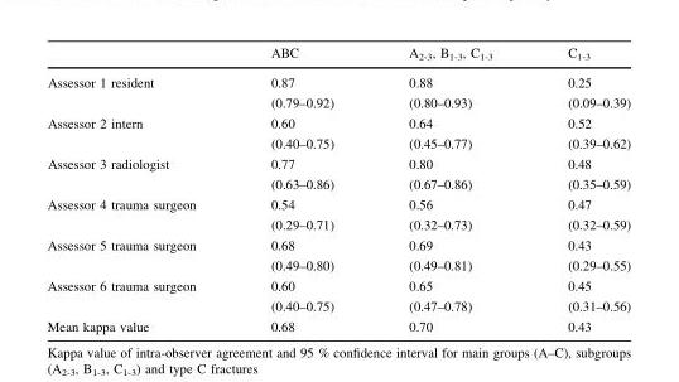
<table><thead><tr><td></td><td>ABC</td><td>A<sub>2-3</sub>, B<sub>1-3</sub>, C<sub>1-3</sub></td><td>C<sub>1-3</sub></td></tr></thead><tbody><tr><td>Assessor 1 resident</td><td>0.87 (0.79–0.92)</td><td>0.88 (0.80–0.93)</td><td>0.25 (0.09–0.39)</td></tr><tr><td>Assessor 2 intern</td><td>0.60 (0.40–0.75)</td><td>0.64 (0.45–0.77)</td><td>0.52 (0.39–0.62)</td></tr><tr><td>Assessor 3 radiologist</td><td>0.77 (0.63–0.86)</td><td>0.80 (0.67–0.86)</td><td>0.48 (0.35–0.59)</td></tr><tr><td>Assessor 4 trauma surgeon</td><td>0.54 (0.29–0.71)</td><td>0.56 (0.32–0.73)</td><td>0.47 (0.32–0.59)</td></tr><tr><td>Assessor 5 trauma surgeon</td><td>0.68 (0.49–0.80)</td><td>0.69 (0.49–0.81)</td><td>0.43 (0.29–0.55)</td></tr><tr><td>Assessor 6 trauma surgeon</td><td>0.60 (0.40–0.75)</td><td>0.65 (0.47–0.78)</td><td>0.45 (0.31–0.56)</td></tr><tr><td>Mean kappa value</td><td>0.68</td><td>0.70</td><td>0.43</td></tr></tbody></table>